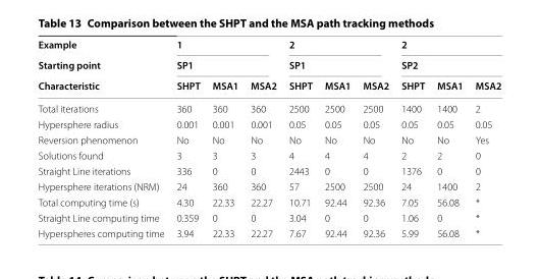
<table><thead><tr><td rowspan="3">Example Starting point Characteristic</td><td rowspan="2" colspan="3">1 SP1</td><td rowspan="2" colspan="3">2 SP1</td><td rowspan="2" colspan="3">2 SP2</td></tr><tr></tr><tr><td>SHPT</td><td>MSA1</td><td>MSA2</td><td>SHPT</td><td>MSA1</td><td>MSA2</td><td>SHPT</td><td>MSA1</td><td>MSA2</td></tr></thead><tbody><tr><td>Total iterations</td><td>360</td><td>360</td><td>360</td><td>2500</td><td>2500</td><td>2500</td><td>1400</td><td>1400</td><td>2</td></tr><tr><td>Hypersphere radius</td><td>0.001</td><td>0.001</td><td>0.001</td><td>0.05</td><td>0.05</td><td>0.05</td><td>0.05</td><td>0.05</td><td>0.05</td></tr><tr><td>Reversion phenomenon</td><td>No</td><td>No</td><td>No</td><td>No</td><td>No</td><td>No</td><td>No</td><td>No</td><td>Yes</td></tr><tr><td>Solutions found</td><td>3</td><td>3</td><td>3</td><td>4</td><td>4</td><td>4</td><td>2</td><td>2</td><td>0</td></tr><tr><td>Straight Line iterations</td><td>336</td><td>0</td><td>0</td><td>2443</td><td>0</td><td>0</td><td>1376</td><td>0</td><td>0</td></tr><tr><td>Hypersphere iterations (NRM)</td><td>24</td><td>360</td><td>360</td><td>57</td><td>2500</td><td>2500</td><td>24</td><td>1400</td><td>2</td></tr><tr><td>Total computing time (s)</td><td>4.30</td><td>22.33</td><td>22.27</td><td>10.71</td><td>92.44</td><td>92.36</td><td>7.05</td><td>56.08</td><td>*</td></tr><tr><td>Straight Line computing time</td><td>0.359</td><td>0</td><td>0</td><td>3.04</td><td>0</td><td>0</td><td>1.06</td><td>0</td><td>*</td></tr><tr><td>Hyperspheres computing time</td><td>3.94</td><td>22.33</td><td>22.27</td><td>7.67</td><td>92.44</td><td>92.36</td><td>5.99</td><td>56.08</td><td>*</td></tr></tbody></table>